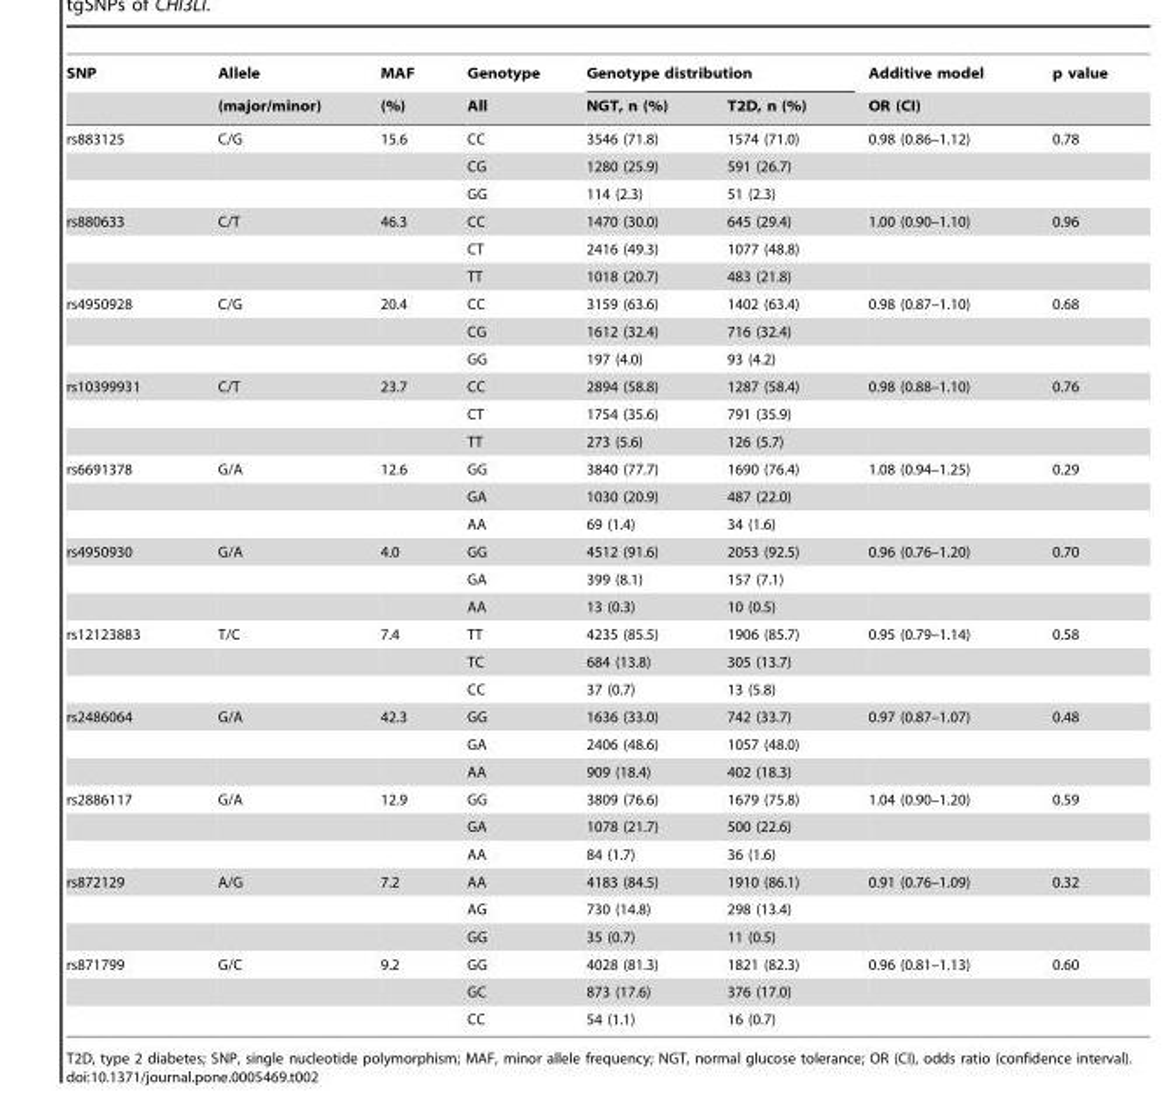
<table><thead><tr><td rowspan="2">SNP</td><td rowspan="2">Allele (major/minor)</td><td rowspan="2">MAF (%)</td><td rowspan="2">Genotype All</td><td colspan="2">Genotype distribution</td><td rowspan="2">Additive model OR (CI)</td><td rowspan="2">p value</td></tr><tr><td>NGT, n (%)</td><td>T2D, n (%)</td></tr></thead><tbody><tr><td rowspan="3">rs883125</td><td>C/G</td><td>15.6</td><td>CC</td><td>3546 (71.8)</td><td>1574 (71.0)</td><td>0.98 (0.86–1.12)</td><td>0.78</td></tr><tr><td></td><td></td><td>CG</td><td>1280 (25.9)</td><td>591 (26.7)</td><td></td><td></td></tr><tr><td></td><td></td><td>GG</td><td>114 (2.3)</td><td>51 (2.3)</td><td></td><td></td></tr><tr><td rowspan="3">rs880633</td><td>C/T</td><td>46.3</td><td>CC</td><td>1470 (30.0)</td><td>645 (29.4)</td><td>1.00 (0.90–1.10)</td><td>0.96</td></tr><tr><td></td><td></td><td>CT</td><td>2416 (49.3)</td><td>1077 (48.8)</td><td></td><td></td></tr><tr><td></td><td></td><td>TT</td><td>1018 (20.7)</td><td>483 (21.8)</td><td></td><td></td></tr><tr><td rowspan="3">rs4950928</td><td>C/G</td><td>20.4</td><td>CC</td><td>3159 (63.6)</td><td>1402 (63.4)</td><td>0.98 (0.87–1.10)</td><td>0.68</td></tr><tr><td></td><td></td><td>CG</td><td>1612 (32.4)</td><td>716 (32.4)</td><td></td><td></td></tr><tr><td></td><td></td><td>GG</td><td>197 (4.0)</td><td>93 (4.2)</td><td></td><td></td></tr><tr><td rowspan="3">rs10399931</td><td>C/T</td><td>23.7</td><td>CC</td><td>2894 (58.8)</td><td>1287 (58.4)</td><td>0.98 (0.88–1.10)</td><td>0.76</td></tr><tr><td></td><td></td><td>CT</td><td>1754 (35.6)</td><td>791 (35.9)</td><td></td><td></td></tr><tr><td></td><td></td><td>TT</td><td>273 (5.6)</td><td>126 (5.7)</td><td></td><td></td></tr><tr><td rowspan="3">rs6691378</td><td>G/A</td><td>12.6</td><td>GG</td><td>3840 (77.7)</td><td>1690 (76.4)</td><td>1.08 (0.94–1.25)</td><td>0.29</td></tr><tr><td></td><td></td><td>GA</td><td>1030 (20.9)</td><td>487 (22.0)</td><td></td><td></td></tr><tr><td></td><td></td><td>AA</td><td>69 (1.4)</td><td>34 (1.6)</td><td></td><td></td></tr><tr><td rowspan="3">rs4950930</td><td>G/A</td><td>4.0</td><td>GG</td><td>4512 (91.6)</td><td>2053 (92.5)</td><td>0.96 (0.76–1.20)</td><td>0.70</td></tr><tr><td></td><td></td><td>GA</td><td>399 (8.1)</td><td>157 (7.1)</td><td></td><td></td></tr><tr><td></td><td></td><td>AA</td><td>13 (0.3)</td><td>10 (0.5)</td><td></td><td></td></tr><tr><td rowspan="3">rs12123883</td><td>T/C</td><td>7.4</td><td>TT</td><td>4235 (85.5)</td><td>1906 (85.7)</td><td>0.95 (0.79–1.14)</td><td>0.58</td></tr><tr><td></td><td></td><td>TC</td><td>684 (13.8)</td><td>305 (13.7)</td><td></td><td></td></tr><tr><td></td><td></td><td>CC</td><td>37 (0.7)</td><td>13 (5.8)</td><td></td><td></td></tr><tr><td rowspan="3">rs2486064</td><td>G/A</td><td>42.3</td><td>GG</td><td>1636 (33.0)</td><td>742 (33.7)</td><td>0.97 (0.87–1.07)</td><td>0.48</td></tr><tr><td></td><td></td><td>GA</td><td>2406 (48.6)</td><td>1057 (48.0)</td><td></td><td></td></tr><tr><td></td><td></td><td>AA</td><td>909 (18.4)</td><td>402 (18.3)</td><td></td><td></td></tr><tr><td rowspan="3">rs2886117</td><td>G/A</td><td>12.9</td><td>GG</td><td>3809 (76.6)</td><td>1679 (75.8)</td><td>1.04 (0.90–1.20)</td><td>0.59</td></tr><tr><td></td><td></td><td>GA</td><td>1078 (21.7)</td><td>500 (22.6)</td><td></td><td></td></tr><tr><td></td><td></td><td>AA</td><td>84 (1.7)</td><td>36 (1.6)</td><td></td><td></td></tr><tr><td rowspan="3">rs872129</td><td>A/G</td><td>7.2</td><td>AA</td><td>4183 (84.5)</td><td>1910 (86.1)</td><td>0.91 (0.76–1.09)</td><td>0.32</td></tr><tr><td></td><td></td><td>AG</td><td>730 (14.8)</td><td>298 (13.4)</td><td></td><td></td></tr><tr><td></td><td></td><td>GG</td><td>35 (0.7)</td><td>11 (0.5)</td><td></td><td></td></tr><tr><td rowspan="3">rs871799</td><td>G/C</td><td>9.2</td><td>GG</td><td>4028 (81.3)</td><td>1821 (82.3)</td><td>0.96 (0.81–1.13)</td><td>0.60</td></tr><tr><td></td><td></td><td>GC</td><td>873 (17.6)</td><td>376 (17.0)</td><td></td><td></td></tr><tr><td></td><td></td><td>CC</td><td>54 (1.1)</td><td>16 (0.7)</td><td></td><td></td></tr></tbody></table>